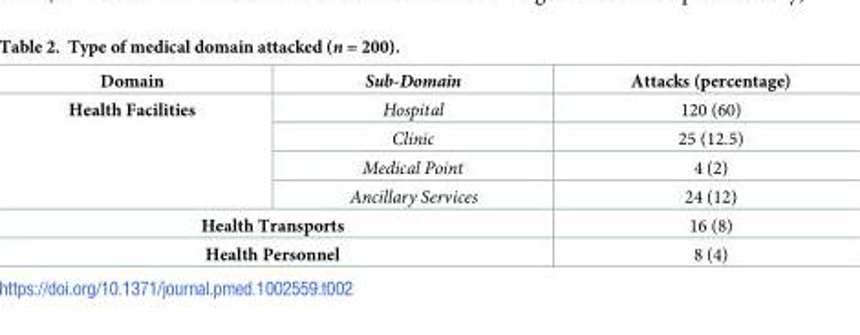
<table><thead><tr><td>Domain</td><td>Sub-Domain</td><td>Attacks (percentage)</td></tr></thead><tbody><tr><td rowspan="4">Health Facilities</td><td>Hospital</td><td>120 (60)</td></tr><tr><td>Clinic</td><td>25 (12.5)</td></tr><tr><td>Medical Point</td><td>4 (2)</td></tr><tr><td>Ancillary Services</td><td>24 (12)</td></tr><tr><td colspan="2">Health Transports</td><td>16 (8)</td></tr><tr><td colspan="2">Health Personnel</td><td>8 (4)</td></tr></tbody></table>